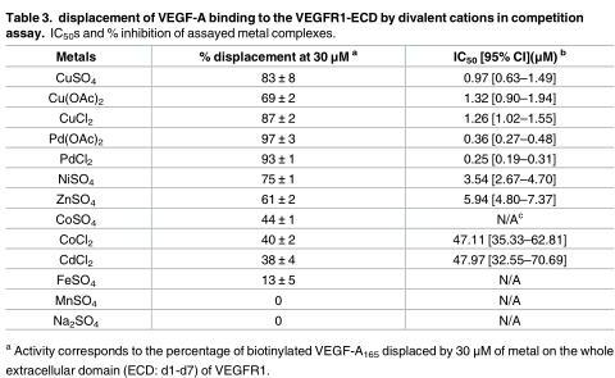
<table><thead><tr><td>Metals</td><td>% displacement at 30 μM <sup>a</sup></td><td>IC<sub>50</sub> [95% CI](μM) <sup>b</sup></td></tr></thead><tbody><tr><td>CuSO<sub>4</sub></td><td>83 ± 8</td><td>0.97 [0.63–1.49]</td></tr><tr><td>Cu(OAc)<sub>2</sub></td><td>69 ± 2</td><td>1.32 [0.90–1.94]</td></tr><tr><td>CuCl<sub>2</sub></td><td>87 ± 2</td><td>1.26 [1.02–1.55]</td></tr><tr><td>Pd(OAc)<sub>2</sub></td><td>97 ± 3</td><td>0.36 [0.27–0.48]</td></tr><tr><td>PdCl<sub>2</sub></td><td>93 ± 1</td><td>0.25 [0.19–0.31]</td></tr><tr><td>NiSO<sub>4</sub></td><td>75 ± 1</td><td>3.54 [2.67–4.70]</td></tr><tr><td>ZnSO<sub>4</sub></td><td>61 ± 2</td><td>5.94 [4.80–7.37]</td></tr><tr><td>CoSO<sub>4</sub></td><td>44 ± 1</td><td>N/A<sup>c</sup></td></tr><tr><td>CoCl<sub>2</sub></td><td>40 ± 2</td><td>47.11 [35.33–62.81]</td></tr><tr><td>CdCl<sub>2</sub></td><td>38 ± 4</td><td>47.97 [32.55–70.69]</td></tr><tr><td>FeSO<sub>4</sub></td><td>13 ± 5</td><td>N/A</td></tr><tr><td>MnSO<sub>4</sub></td><td>0</td><td>N/A</td></tr><tr><td>Na<sub>2</sub>SO<sub>4</sub></td><td>0</td><td>N/A</td></tr></tbody></table>